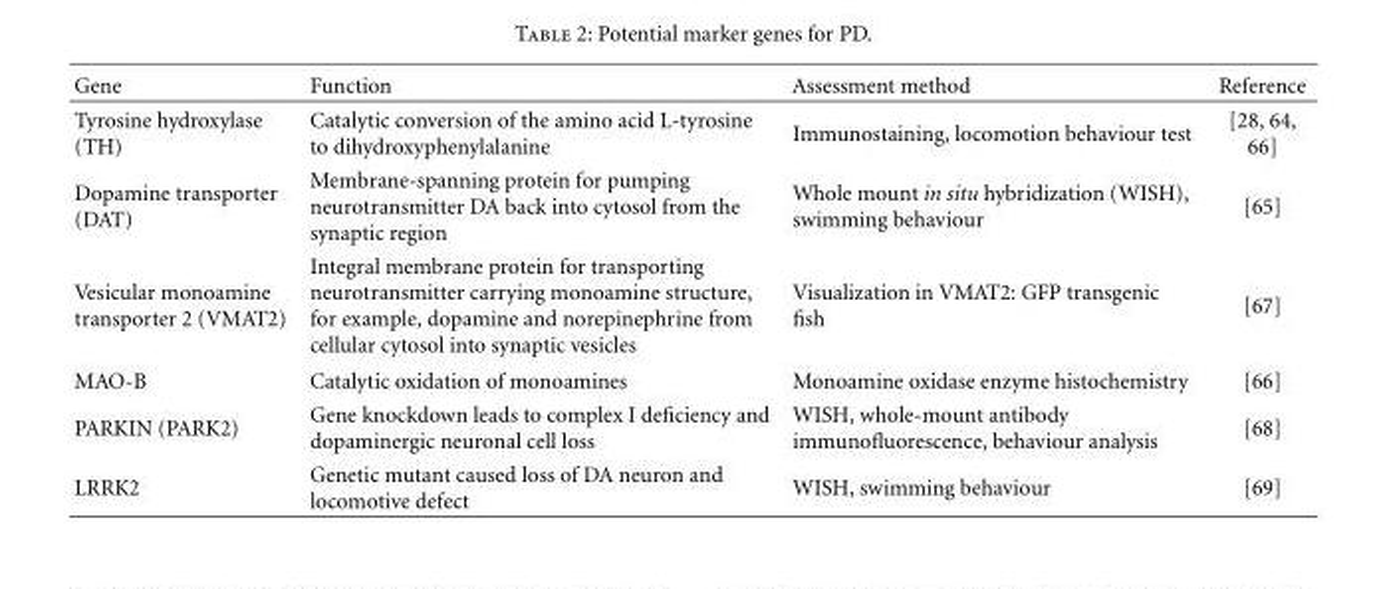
<table><thead><tr><td>Gene</td><td>Function</td><td>Assessment method</td><td>Reference</td></tr></thead><tbody><tr><td>Tyrosine hydroxylase (TH)</td><td>Catalytic conversion of the amino acid L-tyrosine to dihydroxyphenylalanine</td><td>Immunostaining, locomotion behaviour test</td><td>[28, 64, 66]</td></tr><tr><td>Dopamine transporter (DAT)</td><td>Membrane-spanning protein for pumping neurotransmitter DA back into cytosol from the synaptic region</td><td>Whole mount in situ hybridization (WISH), swimming behaviour</td><td>[65]</td></tr><tr><td>Vesicular monoamine transporter 2 (VMAT2)</td><td>Integral membrane protein for transporting neurotransmitter carrying monoamine structure, for example, dopamine and norepinephrine from cellular cytosol into synaptic vesicles</td><td>Visualization in VMAT2: GFP transgenic fish</td><td>[67]</td></tr><tr><td>MAO-B</td><td>Catalytic oxidation of monoamines</td><td>Monoamine oxidase enzyme histochemistry</td><td>[66]</td></tr><tr><td>PARKIN (PARK2)</td><td>Gene knockdown leads to complex I deficiency and dopaminergic neuronal cell loss</td><td>WISH, whole-mount antibody immunofluorescence, behaviour analysis</td><td>[68]</td></tr><tr><td>LRRK2</td><td>Genetic mutant caused loss of DA neuron and locomotive defect</td><td>WISH, swimming behaviour</td><td>[69]</td></tr></tbody></table>